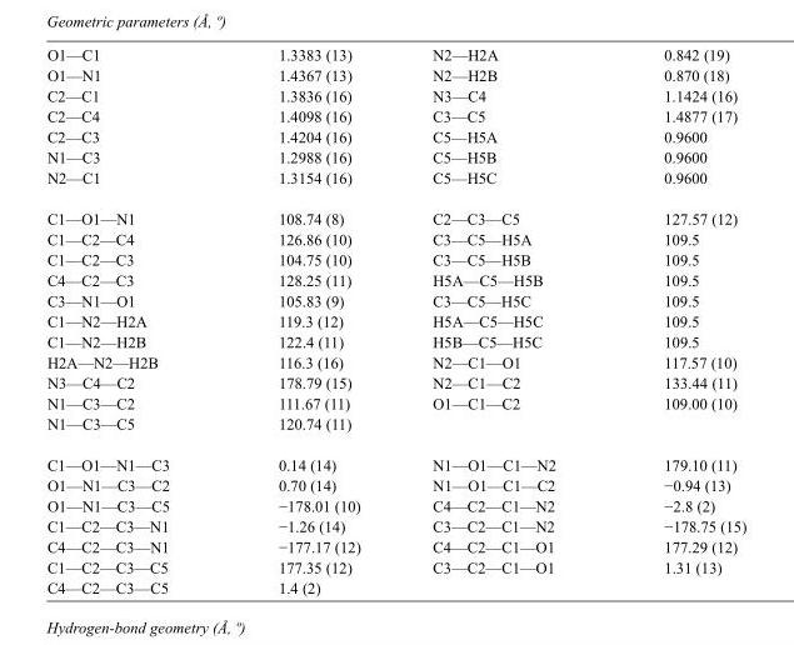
<table><tbody><tr><td>O1—C1</td><td>1.3383 (13)</td><td>N2—H2A</td><td>0.842 (19)</td></tr><tr><td>O1—N1</td><td>1.4367 (13)</td><td>N2—H2B</td><td>0.870 (18)</td></tr><tr><td>C2—C1</td><td>1.3836 (16)</td><td>N3—C4</td><td>1.1424 (16)</td></tr><tr><td>C2—C4</td><td>1.4098 (16)</td><td>C3—C5</td><td>1.4877 (17)</td></tr><tr><td>C2—C3</td><td>1.4204 (16)</td><td>C5—H5A</td><td>0.9600</td></tr><tr><td>N1—C3</td><td>1.2988 (16)</td><td>C5—H5B</td><td>0.9600</td></tr><tr><td>N2—C1</td><td>1.3154 (16)</td><td>C5—H5C</td><td>0.9600</td></tr><tr><td>C1—O1—N1</td><td>108.74 (8)</td><td>C2—C3—C5</td><td>127.57 (12)</td></tr><tr><td>C1—C2—C4</td><td>126.86 (10)</td><td>C3—C5—H5A</td><td>109.5</td></tr><tr><td>C1—C2—C3</td><td>104.75 (10)</td><td>C3—C5—H5B</td><td>109.5</td></tr><tr><td>C4—C2—C3</td><td>128.25 (11)</td><td>H5A—C5—H5B</td><td>109.5</td></tr><tr><td>C3—N1—O1</td><td>105.83 (9)</td><td>C3—C5—H5C</td><td>109.5</td></tr><tr><td>C1—N2—H2A</td><td>119.3 (12)</td><td>H5A—C5—H5C</td><td>109.5</td></tr><tr><td>C1—N2—H2B</td><td>122.4 (11)</td><td>H5B—C5—H5C</td><td>109.5</td></tr><tr><td>H2A—N2—H2B</td><td>116.3 (16)</td><td>N2—C1—O1</td><td>117.57 (10)</td></tr><tr><td>N3—C4—C2</td><td>178.79 (15)</td><td>N2—C1—C2</td><td>133.44 (11)</td></tr><tr><td>N1—C3—C2</td><td>111.67 (11)</td><td>O1—C1—C2</td><td>109.00 (10)</td></tr><tr><td>N1—C3—C5</td><td>120.74 (11)</td><td></td><td></td></tr><tr><td>C1—O1—N1—C3</td><td>0.14 (14)</td><td>N1—O1—C1—N2</td><td>179.10 (11)</td></tr><tr><td>O1—N1—C3—C2</td><td>0.70 (14)</td><td>N1—O1—C1—C2</td><td>−0.94 (13)</td></tr><tr><td>O1—N1—C3—C5</td><td>−178.01 (10)</td><td>C4—C2—C1—N2</td><td>−2.8 (2)</td></tr><tr><td>C1—C2—C3—N1</td><td>−1.26 (14)</td><td>C3—C2—C1—N2</td><td>−178.75 (15)</td></tr><tr><td>C4—C2—C3—N1</td><td>−177.17 (12)</td><td>C4—C2—C1—O1</td><td>177.29 (12)</td></tr><tr><td>C1—C2—C3—C5</td><td>177.35 (12)</td><td>C3—C2—C1—O1</td><td>1.31 (13)</td></tr><tr><td>C4—C2—C3—C5</td><td>1.4 (2)</td><td></td><td></td></tr></tbody></table>